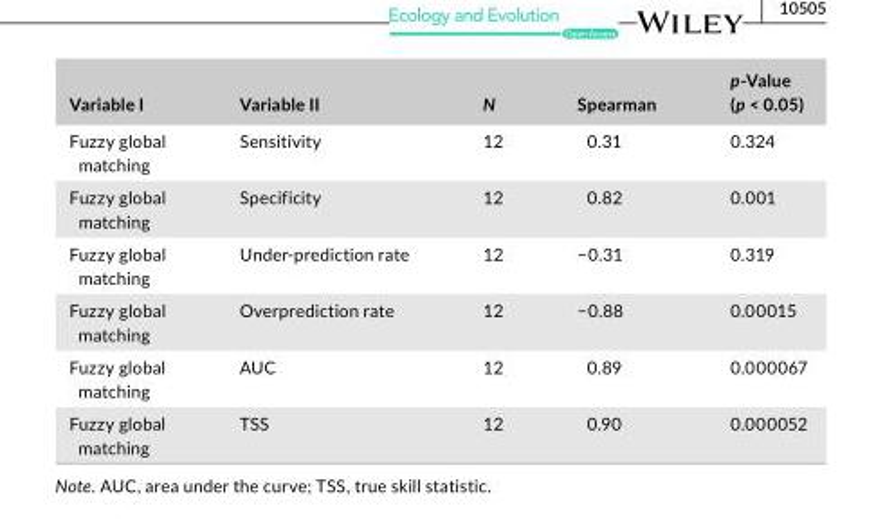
<table><thead><tr><td>Variable I</td><td>Variable II</td><td>N</td><td>Spearman</td><td>p- Value (p &lt; 0.05)</td></tr></thead><tbody><tr><td>Fuzzy global matching</td><td>Sensitivity</td><td>12</td><td>0.31</td><td>0.324</td></tr><tr><td>Fuzzy global matching</td><td>Specificity</td><td>12</td><td>0.82</td><td>0.001</td></tr><tr><td>Fuzzy global matching</td><td>Under- prediction rate</td><td>12</td><td>−0.31</td><td>0.319</td></tr><tr><td>Fuzzy global matching</td><td>Overprediction rate</td><td>12</td><td>−0.88</td><td>0.00015</td></tr><tr><td>Fuzzy global matching</td><td>AUC</td><td>12</td><td>0.89</td><td>0.000067</td></tr><tr><td>Fuzzy global matching</td><td>TSS</td><td>12</td><td>0.90</td><td>0.000052</td></tr></tbody></table>